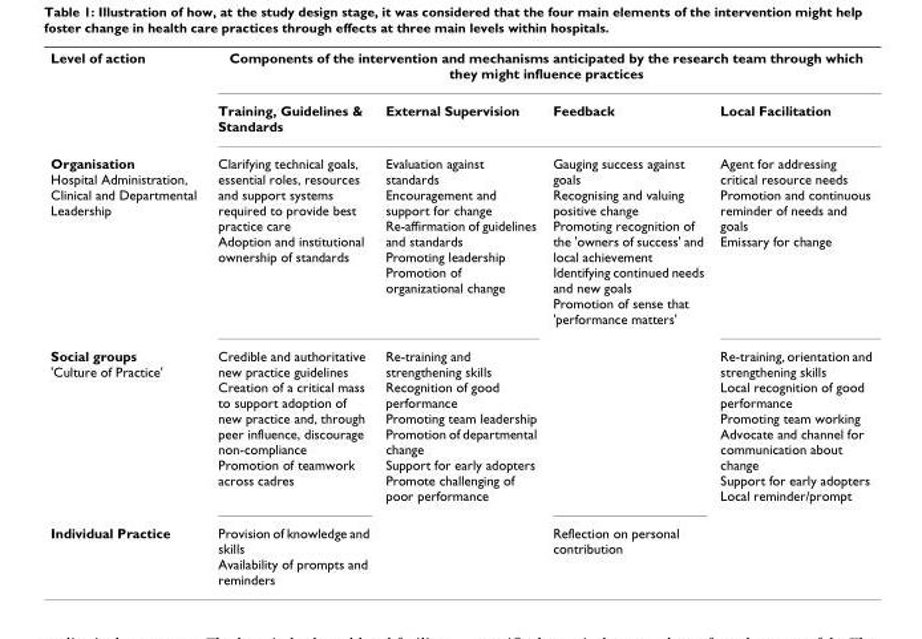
<table><tbody><tr><td rowspan="2">Level of action</td><td colspan="4">Components of the intervention and mechanisms anticipated by the research team through which they might influence practices</td></tr><tr><td>Training, Guidelines &amp; Standards</td><td>External Supervision</td><td>Feedback</td><td>Local Facilitation</td></tr><tr><td>Organisation Hospital Administration, Clinical and Departmental Leadership</td><td>Clarifying technical goals, essential roles, resources and support systems required to provide best practice care Adoption and institutional ownership of standards</td><td>Evaluation against standards Encouragement and support for change Re-affirmation of guidelines and standards Promoting leadership Promotion of organizational change</td><td>Gauging success against goals Recognising and valuing positive change Promoting recognition of the &#x27;owners of success&#x27; and local achievement Identifying continued needs and new goals Promotion of sense that &#x27;performance matters&#x27;</td><td>Agent for addressing critical resource needs Promotion and continuous reminder of needs and goals Emissary for change</td></tr><tr><td>Social groups &#x27;Culture of Practice&#x27;</td><td>Credible and authoritative new practice guidelines Creation of a critical mass to support adoption of new practice and, through peer influence, discourage non-compliance Promotion of teamwork across cadres</td><td>Re-training and strengthening skills Recognition of good performance Promoting team leadership Promotion of departmental change Support for early adopters Promote challenging of poor performance</td><td></td><td>Re-training, orientation and strengthening skills Local recognition of good performance Promoting team working Advocate and channel for communication about change Support for early adopters Local reminder/prompt</td></tr><tr><td>Individual Practice</td><td>Provision of knowledge and skills Availability of prompts and reminders</td><td></td><td>Reflection on personal contribution</td><td></td></tr></tbody></table>